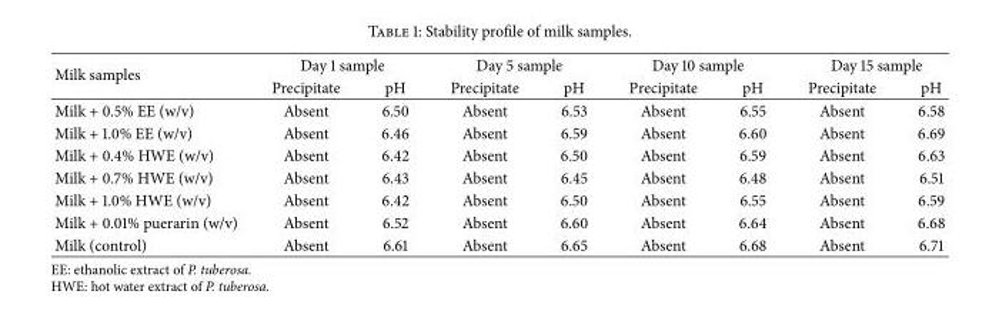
<table><thead><tr><td rowspan="2">Milk samples</td><td colspan="2">Day 1 sample</td><td colspan="2">Day 5 sample</td><td colspan="2">Day 10 sample</td><td colspan="2">Day 15 sample</td></tr><tr><td>Precipitate</td><td>pH</td><td>Precipitate</td><td>pH</td><td>Precipitate</td><td>pH</td><td>Precipitate</td><td>pH</td></tr></thead><tbody><tr><td>Milk + 0.5% EE (w/v)</td><td>Absent</td><td>6.50</td><td>Absent</td><td>6.53</td><td>Absent</td><td>6.55</td><td>Absent</td><td>6.58</td></tr><tr><td>Milk + 1.0% EE (w/v)</td><td>Absent</td><td>6.46</td><td>Absent</td><td>6.59</td><td>Absent</td><td>6.60</td><td>Absent</td><td>6.69</td></tr><tr><td>Milk + 0.4% HWE (w/v)</td><td>Absent</td><td>6.42</td><td>Absent</td><td>6.50</td><td>Absent</td><td>6.59</td><td>Absent</td><td>6.63</td></tr><tr><td>Milk + 0.7% HWE (w/v)</td><td>Absent</td><td>6.43</td><td>Absent</td><td>6.45</td><td>Absent</td><td>6.48</td><td>Absent</td><td>6.51</td></tr><tr><td>Milk + 1.0% HWE (w/v)</td><td>Absent</td><td>6.42</td><td>Absent</td><td>6.50</td><td>Absent</td><td>6.55</td><td>Absent</td><td>6.59</td></tr><tr><td>Milk + 0.01% puerarin (w/v)</td><td>Absent</td><td>6.52</td><td>Absent</td><td>6.60</td><td>Absent</td><td>6.64</td><td>Absent</td><td>6.68</td></tr><tr><td>Milk (control)</td><td>Absent</td><td>6.61</td><td>Absent</td><td>6.65</td><td>Absent</td><td>6.68</td><td>Absent</td><td>6.71</td></tr></tbody></table>